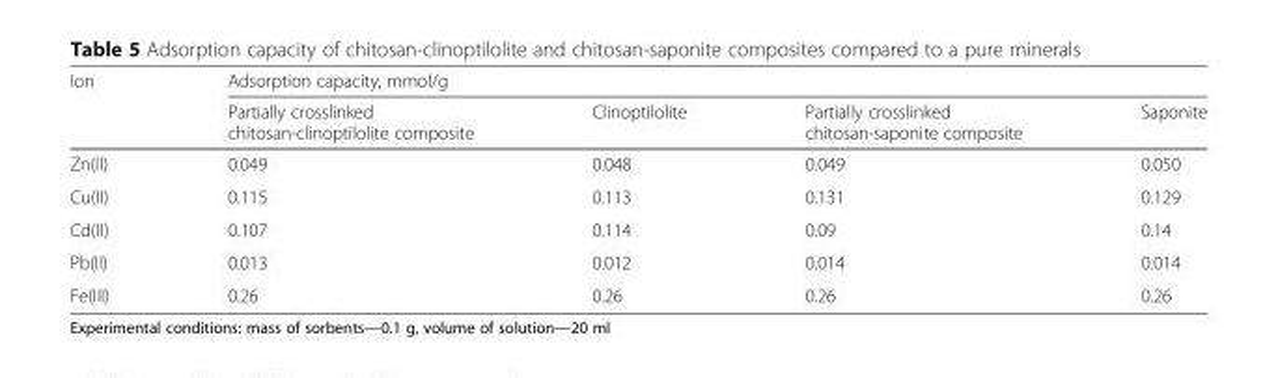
<table><thead><tr><td rowspan="2">Ion</td><td colspan="4">Adsorption capacity, mmol/g</td></tr><tr><td>Partially crosslinked chitosan-clinoptilolite composite</td><td>Clinoptilolite</td><td>Partially crosslinked chitosan-saponite composite</td><td>Saponite</td></tr></thead><tbody><tr><td>Zn(II)</td><td>0.049</td><td>0.048</td><td>0.049</td><td>0.050</td></tr><tr><td>Cu(II)</td><td>0.115</td><td>0.113</td><td>0.131</td><td>0.129</td></tr><tr><td>Cd(II)</td><td>0.107</td><td>0.114</td><td>0.09</td><td>0.14</td></tr><tr><td>Pb(II)</td><td>0.013</td><td>0.012</td><td>0.014</td><td>0.014</td></tr><tr><td>Fe(III)</td><td>0.26</td><td>0.26</td><td>0.26</td><td>0.26</td></tr></tbody></table>